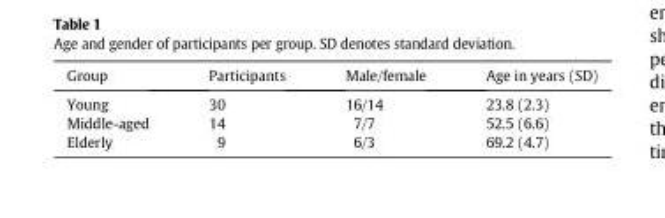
<table><thead><tr><td>Group</td><td>Participants</td><td>Male/female</td><td>Age in years (SD)</td></tr></thead><tbody><tr><td>Young</td><td>30</td><td>16/14</td><td>23.8 (2.3)</td></tr><tr><td>Middle-aged</td><td>14</td><td>7/7</td><td>52.5 (6.6)</td></tr><tr><td>Elderly</td><td>9</td><td>6/3</td><td>69.2 (4.7)</td></tr></tbody></table>